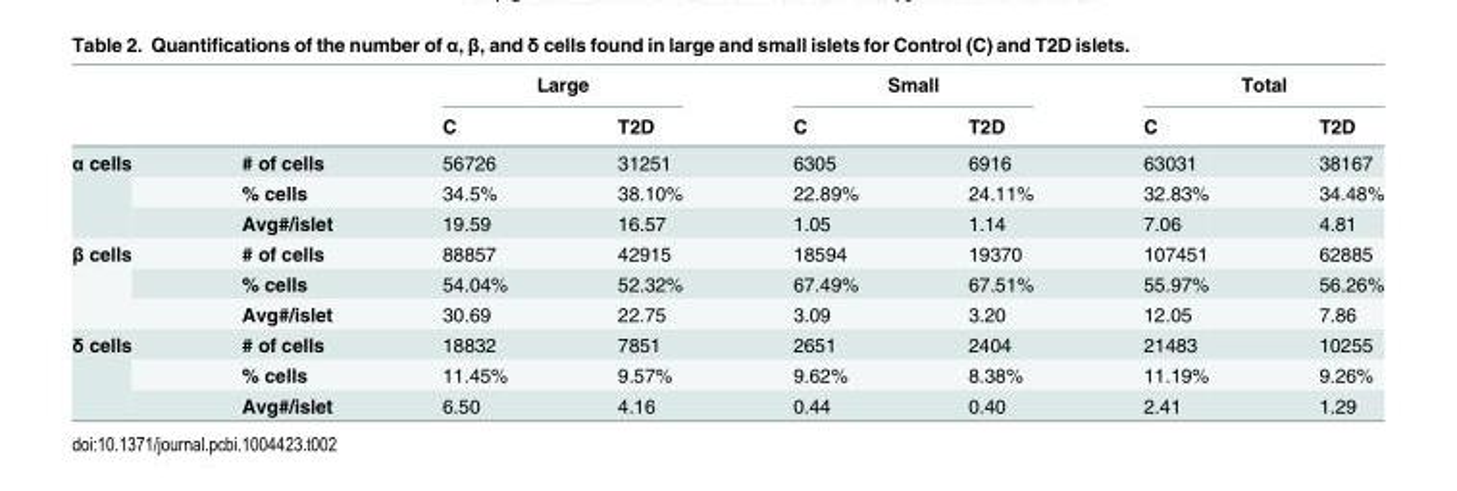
<table><thead><tr><td rowspan="2"></td><td rowspan="2"></td><td colspan="2">Large</td><td colspan="2">Small</td><td colspan="2">Total</td></tr><tr><td>C</td><td>T2D</td><td>C</td><td>T2D</td><td>C</td><td>T2D</td></tr></thead><tbody><tr><td rowspan="3">α cells</td><td># of cells</td><td>56726</td><td>31251</td><td>6305</td><td>6916</td><td>63031</td><td>38167</td></tr><tr><td>% cells</td><td>34.5%</td><td>38.10%</td><td>22.89%</td><td>24.11%</td><td>32.83%</td><td>34.48%</td></tr><tr><td>Avg#/islet</td><td>19.59</td><td>16.57</td><td>1.05</td><td>1.14</td><td>7.06</td><td>4.81</td></tr><tr><td rowspan="3">β cells</td><td># of cells</td><td>88857</td><td>42915</td><td>18594</td><td>19370</td><td>107451</td><td>62885</td></tr><tr><td>% cells</td><td>54.04%</td><td>52.32%</td><td>67.49%</td><td>67.51%</td><td>55.97%</td><td>56.26%</td></tr><tr><td>Avg#/islet</td><td>30.69</td><td>22.75</td><td>3.09</td><td>3.20</td><td>12.05</td><td>7.86</td></tr><tr><td rowspan="3">δ cells</td><td># of cells</td><td>18832</td><td>7851</td><td>2651</td><td>2404</td><td>21483</td><td>10255</td></tr><tr><td>% cells</td><td>11.45%</td><td>9.57%</td><td>9.62%</td><td>8.38%</td><td>11.19%</td><td>9.26%</td></tr><tr><td>Avg#/islet</td><td>6.50</td><td>4.16</td><td>0.44</td><td>0.40</td><td>2.41</td><td>1.29</td></tr></tbody></table>